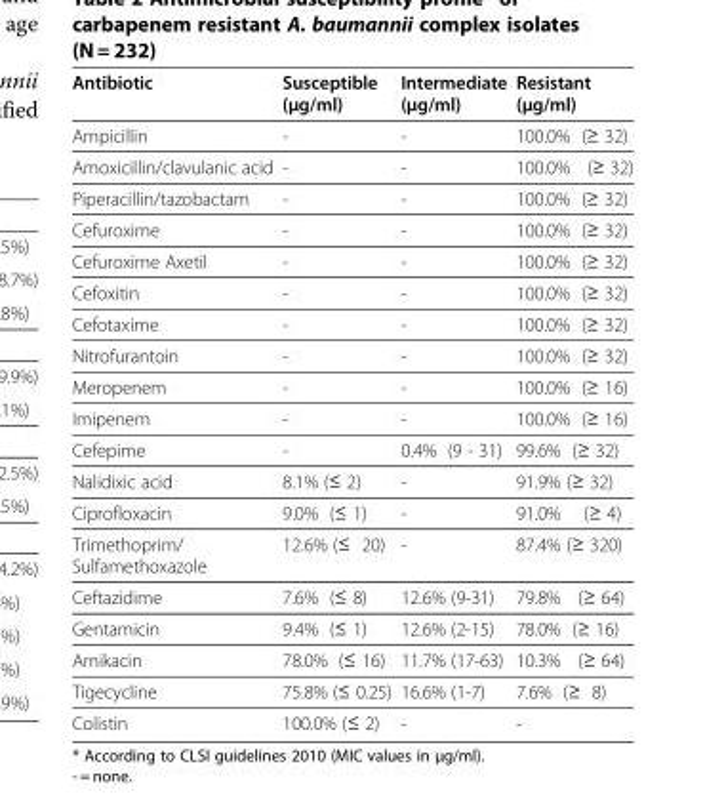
<table><thead><tr><td>Antibiotic</td><td>Susceptible (μg/ml)</td><td>Intermediate (μg/ml)</td><td>Resistant (μg/ml)</td></tr></thead><tbody><tr><td>Ampicillin</td><td>-</td><td>-</td><td>100.0% (≥ 32)</td></tr><tr><td>Amoxicillin/clavulanic acid</td><td>-</td><td>-</td><td>100.0% (≥ 32)</td></tr><tr><td>Piperacillin/tazobactam</td><td>-</td><td>-</td><td>100.0% (≥ 32)</td></tr><tr><td>Cefuroxime</td><td>-</td><td>-</td><td>100.0% (≥ 32)</td></tr><tr><td>Cefuroxime Axetil</td><td>-</td><td>-</td><td>100.0% (≥ 32)</td></tr><tr><td>Cefoxitin</td><td>-</td><td>-</td><td>100.0% (≥ 32)</td></tr><tr><td>Cefotaxime</td><td>-</td><td>-</td><td>100.0% (≥ 32)</td></tr><tr><td>Nitrofurantoin</td><td>-</td><td>-</td><td>100.0% (≥ 32)</td></tr><tr><td>Meropenem</td><td>-</td><td>-</td><td>100.0% (≥ 16)</td></tr><tr><td>Imipenem</td><td>-</td><td>-</td><td>100.0% (≥ 16)</td></tr><tr><td>Cefepime</td><td>-</td><td>0.4% (9 - 31)</td><td>99.6% (≥ 32)</td></tr><tr><td>Nalidixic acid</td><td>8.1% (≤ 2)</td><td>-</td><td>91.9% (≥ 32)</td></tr><tr><td>Ciprofloxacin</td><td>9.0% (≤ 1)</td><td>-</td><td>91.0% (≥ 4)</td></tr><tr><td>Trimethoprim/ Sulfamethoxazole</td><td>12.6% (≤ 20)</td><td>-</td><td>87.4% (≥ 320)</td></tr><tr><td>Ceftazidime</td><td>7.6% (≤ 8)</td><td>12.6% (9-31)</td><td>79.8% (≥ 64)</td></tr><tr><td>Gentamicin</td><td>9.4% (≤ 1)</td><td>12.6% (2-15)</td><td>78.0% (≥ 16)</td></tr><tr><td>Amikacin</td><td>78.0% (≤ 16)</td><td>11.7% (17-63)</td><td>10.3% (≥ 64)</td></tr><tr><td>Tigecycline</td><td>75.8% (≤ 0.25)</td><td>16.6% (1-7)</td><td>7.6% (≥ 8)</td></tr><tr><td>Colistin</td><td>100.0% (≤ 2)</td><td>-</td><td>-</td></tr></tbody></table>